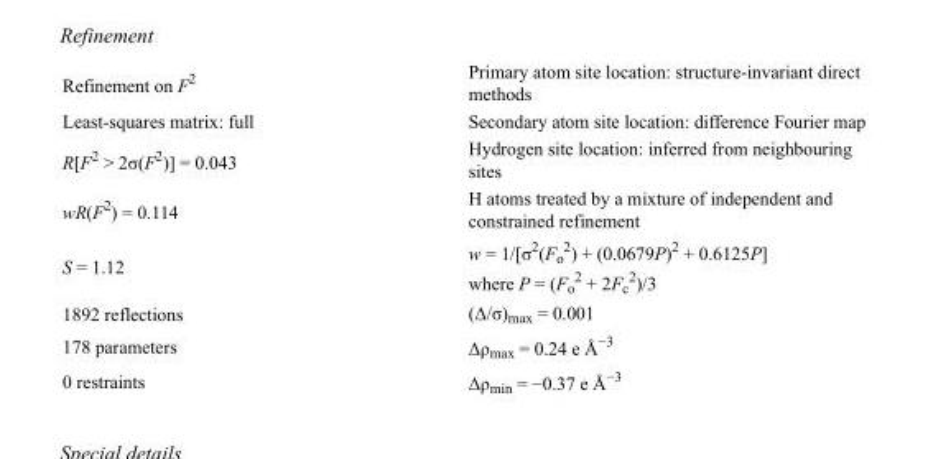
<table><tbody><tr><td>Refinement on F<sup>2</sup></td><td>Primary atom site location: structure-invariant direct methods</td></tr><tr><td>Least-squares matrix: full</td><td>Secondary atom site location: difference Fourier map</td></tr><tr><td>R[F<sup>2</sup> &gt; 2σ(F<sup>2</sup>)] = 0.043</td><td>Hydrogen site location: inferred from neighbouring sites</td></tr><tr><td>wR(F<sup>2</sup>) = 0.114</td><td>H atoms treated by a mixture of independent and constrained refinement</td></tr><tr><td>S = 1.12</td><td>w = 1/[σ<sup>2</sup>(F<sub>o</sub> <sup>2</sup>) + (0.0679P)<sup>2</sup> + 0.6125P] where P = (F<sub>o</sub> <sup>2</sup> + 2F<sub>c</sub> <sup>2</sup>)/3</td></tr><tr><td>1892 reflections</td><td>(Δ/σ)<sub>max</sub> = 0.001</td></tr><tr><td>178 parameters</td><td>Δρ<sub>max</sub> = 0.24 e Å<sup>−3</sup></td></tr><tr><td>0 restraints</td><td>Δρ<sub>min</sub> = −0.37 e Å<sup>−3</sup></td></tr></tbody></table>